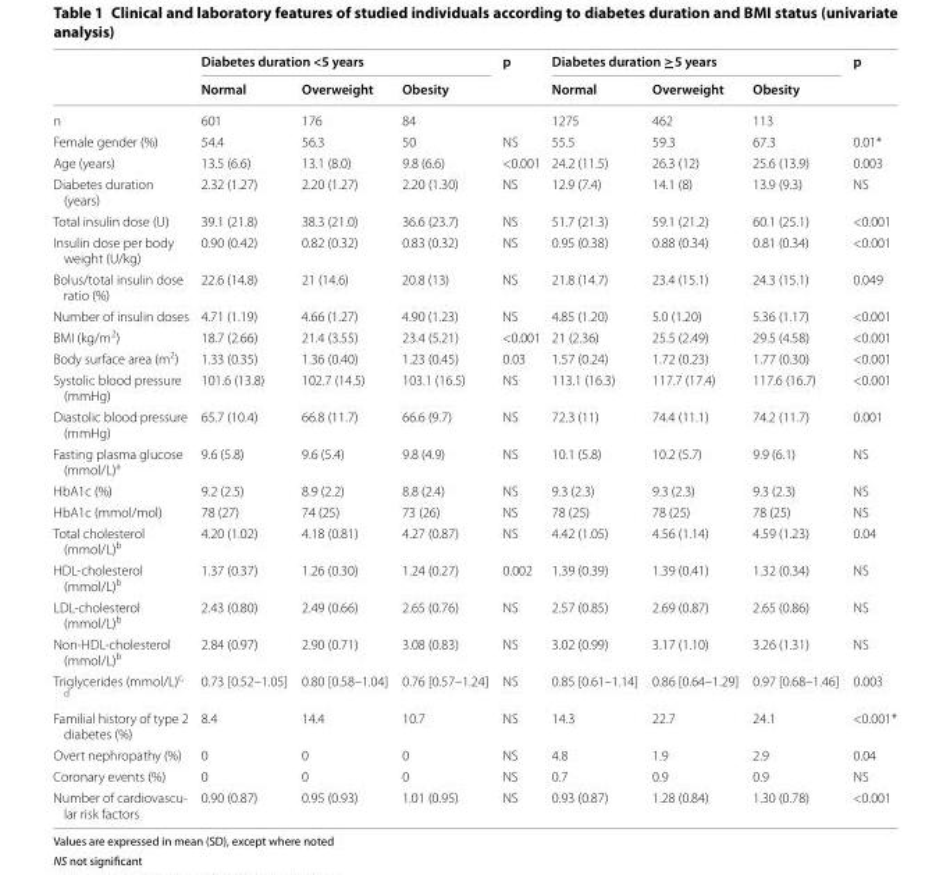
<table><thead><tr><td rowspan="2"></td><td colspan="3">Diabetes duration &lt;5 years</td><td rowspan="2">p</td><td colspan="3">Diabetes duration ≥5 years</td><td rowspan="2">p</td></tr><tr><td>Normal</td><td>Overweight</td><td>Obesity</td><td>Normal</td><td>Overweight</td><td>Obesity</td></tr></thead><tbody><tr><td>n</td><td>601</td><td>176</td><td>84</td><td></td><td>1275</td><td>462</td><td>113</td><td></td></tr><tr><td>Female gender (%)</td><td>54.4</td><td>56.3</td><td>50</td><td>NS</td><td>55.5</td><td>59.3</td><td>67.3</td><td>0.01*</td></tr><tr><td>Age (years)</td><td>13.5 (6.6)</td><td>13.1 (8.0)</td><td>9.8 (6.6)</td><td>&lt;0.001</td><td>24.2 (11.5)</td><td>26.3 (12)</td><td>25.6 (13.9)</td><td>0.003</td></tr><tr><td>Diabetes duration (years)</td><td>2.32 (1.27)</td><td>2.20 (1.27)</td><td>2.20 (1.30)</td><td>NS</td><td>12.9 (7.4)</td><td>14.1 (8)</td><td>13.9 (9.3)</td><td>NS</td></tr><tr><td>Total insulin dose (U)</td><td>39.1 (21.8)</td><td>38.3 (21.0)</td><td>36.6 (23.7)</td><td>NS</td><td>51.7 (21.3)</td><td>59.1 (21.2)</td><td>60.1 (25.1)</td><td>&lt;0.001</td></tr><tr><td>Insulin dose per body weight (U/kg)</td><td>0.90 (0.42)</td><td>0.82 (0.32)</td><td>0.83 (0.32)</td><td>NS</td><td>0.95 (0.38)</td><td>0.88 (0.34)</td><td>0.81 (0.34)</td><td>&lt;0.001</td></tr><tr><td>Bolus/total insulin dose ratio (%)</td><td>22.6 (14.8)</td><td>21 (14.6)</td><td>20.8 (13)</td><td>NS</td><td>21.8 (14.7)</td><td>23.4 (15.1)</td><td>24.3 (15.1)</td><td>0.049</td></tr><tr><td>Number of insulin doses</td><td>4.71 (1.19)</td><td>4.66 (1.27)</td><td>4.90 (1.23)</td><td>NS</td><td>4.85 (1.20)</td><td>5.0 (1.20)</td><td>5.36 (1.17)</td><td>&lt;0.001</td></tr><tr><td>BMI (kg/m<sup>2</sup>)</td><td>18.7 (2.66)</td><td>21.4 (3.55)</td><td>23.4 (5.21)</td><td>&lt;0.001</td><td>21 (2.36)</td><td>25.5 (2.49)</td><td>29.5 (4.58)</td><td>&lt;0.001</td></tr><tr><td>Body surface area (m<sup>2</sup>)</td><td>1.33 (0.35)</td><td>1.36 (0.40)</td><td>1.23 (0.45)</td><td>0.03</td><td>1.57 (0.24)</td><td>1.72 (0.23)</td><td>1.77 (0.30)</td><td>&lt;0.001</td></tr><tr><td>Systolic blood pressure (mmHg)</td><td>101.6 (13.8)</td><td>102.7 (14.5)</td><td>103.1 (16.5)</td><td>NS</td><td>113.1 (16.3)</td><td>117.7 (17.4)</td><td>117.6 (16.7)</td><td>&lt;0.001</td></tr><tr><td>Diastolic blood pressure (mmHg)</td><td>65.7 (10.4)</td><td>66.8 (11.7)</td><td>66.6 (9.7)</td><td>NS</td><td>72.3 (11)</td><td>74.4 (11.1)</td><td>74.2 (11.7)</td><td>0.001</td></tr><tr><td>Fasting plasma glucose (mmol/L)<sup>a</sup></td><td>9.6 (5.8)</td><td>9.6 (5.4)</td><td>9.8 (4.9)</td><td>NS</td><td>10.1 (5.8)</td><td>10.2 (5.7)</td><td>9.9 (6.1)</td><td>NS</td></tr><tr><td>HbA1c (%)</td><td>9.2 (2.5)</td><td>8.9 (2.2)</td><td>8.8 (2.4)</td><td>NS</td><td>9.3 (2.3)</td><td>9.3 (2.3)</td><td>9.3 (2.3)</td><td>NS</td></tr><tr><td>HbA1c (mmol/mol)</td><td>78 (27)</td><td>74 (25)</td><td>73 (26)</td><td>NS</td><td>78 (25)</td><td>78 (25)</td><td>78 (25)</td><td>NS</td></tr><tr><td>Total cholesterol (mmol/L)<sup>b</sup></td><td>4.20 (1.02)</td><td>4.18 (0.81)</td><td>4.27 (0.87)</td><td>NS</td><td>4.42 (1.05)</td><td>4.56 (1.14)</td><td>4.59 (1.23)</td><td>0.04</td></tr><tr><td>HDL-cholesterol (mmol/L)<sup>b</sup></td><td>1.37 (0.37)</td><td>1.26 (0.30)</td><td>1.24 (0.27)</td><td>0.002</td><td>1.39 (0.39)</td><td>1.39 (0.41)</td><td>1.32 (0.34)</td><td>NS</td></tr><tr><td>LDL-cholesterol (mmol/L)<sup>b</sup></td><td>2.43 (0.80)</td><td>2.49 (0.66)</td><td>2.65 (0.76)</td><td>NS</td><td>2.57 (0.85)</td><td>2.69 (0.87)</td><td>2.65 (0.86)</td><td>NS</td></tr><tr><td>Non-HDL-cholesterol (mmol/L)<sup>b</sup></td><td>2.84 (0.97)</td><td>2.90 (0.71)</td><td>3.08 (0.83)</td><td>NS</td><td>3.02 (0.99)</td><td>3.17 (1.10)</td><td>3.26 (1.31)</td><td>NS</td></tr><tr><td>Triglycerides (mmol/L)<sup>c, d</sup></td><td>0.73 [0.52–1.05]</td><td>0.80 [0.58–1.04]</td><td>0.76 [0.57–1.24]</td><td>NS</td><td>0.85 [0.61–1.14]</td><td>0.86 [0.64–1.29]</td><td>0.97 [0.68–1.46]</td><td>0.003</td></tr><tr><td>Familial history of type 2 diabetes (%)</td><td>8.4</td><td>14.4</td><td>10.7</td><td>NS</td><td>14.3</td><td>22.7</td><td>24.1</td><td>&lt;0.001*</td></tr><tr><td>Overt nephropathy (%)</td><td>0</td><td>0</td><td>0</td><td>NS</td><td>4.8</td><td>1.9</td><td>2.9</td><td>0.04</td></tr><tr><td>Coronary events (%)</td><td>0</td><td>0</td><td>0</td><td>NS</td><td>0.7</td><td>0.9</td><td>0.9</td><td>NS</td></tr><tr><td>Number of cardiovascu- lar risk factors</td><td>0.90 (0.87)</td><td>0.95 (0.93)</td><td>1.01 (0.95)</td><td>NS</td><td>0.93 (0.87)</td><td>1.28 (0.84)</td><td>1.30 (0.78)</td><td>&lt;0.001</td></tr></tbody></table>